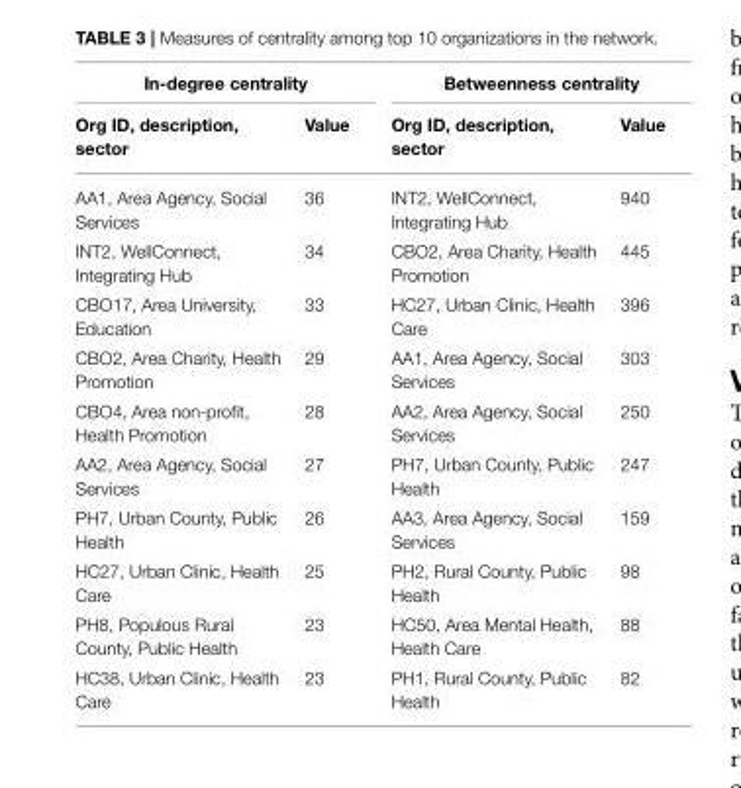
<table><thead><tr><td colspan="2">In-degree centrality</td><td colspan="2">Betweenness centrality</td></tr><tr><td>Org ID, description, sector</td><td>Value</td><td>Org ID, description, sector</td><td>Value</td></tr></thead><tbody><tr><td>AA1, Area Agency, Social Services</td><td>36</td><td>INT2, WellConnect, Integrating Hub</td><td>940</td></tr><tr><td>INT2, WellConnect, Integrating Hub</td><td>34</td><td>CBO2, Area Charity, Health Promotion</td><td>445</td></tr><tr><td>CBO17, Area University, Education</td><td>33</td><td>HC27, Urban Clinic, Health Care</td><td>396</td></tr><tr><td>CBO2, Area Charity, Health Promotion</td><td>29</td><td>AA1, Area Agency, Social Services</td><td>303</td></tr><tr><td>CBO4, Area non-profit, Health Promotion</td><td>28</td><td>AA2, Area Agency, Social Services</td><td>250</td></tr><tr><td>AA2, Area Agency, Social Services</td><td>27</td><td>PH7, Urban County, Public Health</td><td>247</td></tr><tr><td>PH7, Urban County, Public Health</td><td>26</td><td>AA3, Area Agency, Social Services</td><td>159</td></tr><tr><td>HC27, Urban Clinic, Health Care</td><td>25</td><td>PH2, Rural County, Public Health</td><td>98</td></tr><tr><td>PH8, Populous Rural County, Public Health</td><td>23</td><td>HC50, Area Mental Health, Health Care</td><td>88</td></tr><tr><td>HC38, Urban Clinic, Health Care</td><td>23</td><td>PH1, Rural County, Public Health</td><td>82</td></tr></tbody></table>